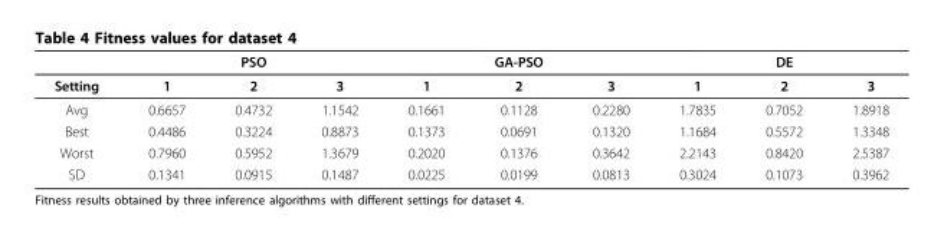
<table><thead><tr><td></td><td></td><td>PSO</td><td></td><td></td><td>GA-PSO</td><td></td><td></td><td>DE</td><td></td></tr></thead><tbody><tr><td>Setting</td><td>1</td><td>2</td><td>3</td><td>1</td><td>2</td><td>3</td><td>1</td><td>2</td><td>3</td></tr><tr><td>Avg</td><td>0.6657</td><td>0.4732</td><td>1.1542</td><td>0.1661</td><td>0.1128</td><td>0.2280</td><td>1.7835</td><td>0.7052</td><td>1.8918</td></tr><tr><td>Best</td><td>0.4486</td><td>0.3224</td><td>0.8873</td><td>0.1373</td><td>0.0691</td><td>0.1320</td><td>1.1684</td><td>0.5572</td><td>1.3348</td></tr><tr><td>Worst</td><td>0.7960</td><td>0.5952</td><td>1.3679</td><td>0.2020</td><td>0.1376</td><td>0.3642</td><td>2.2143</td><td>0.8420</td><td>2.5387</td></tr><tr><td>SD</td><td>0.1341</td><td>0.0915</td><td>0.1487</td><td>0.0225</td><td>0.0199</td><td>0.0813</td><td>0.3024</td><td>0.1073</td><td>0.3962</td></tr></tbody></table>